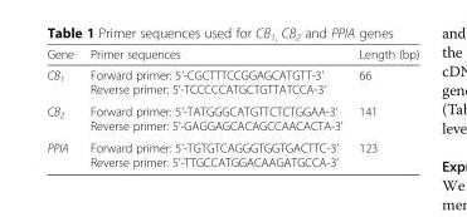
<table><thead><tr><td>Gene</td><td>Primer sequences</td><td>Length (bp)</td></tr></thead><tbody><tr><td>CB<sub>1</sub></td><td>Forward primer: 5’-CGCTTTCCGGAGCATGTT-3’ Reverse primer: 5’-TCCCCCATGCTGTTATCCA-3’</td><td>66</td></tr><tr><td>CB<sub>2</sub></td><td>Forward primer: 5’-TATGGGCATGTTCTCTGGAA-3’ Reverse primer: 5’-GAGGAGCACAGCCAACACTA-3’</td><td>141</td></tr><tr><td>PPIA</td><td>Forward primer: 5’-TGTGTCAGGGTGGTGACTTC-3’ Reverse primer: 5’-TTGCCATGGACAAGATGCCA-3’</td><td>123</td></tr></tbody></table>